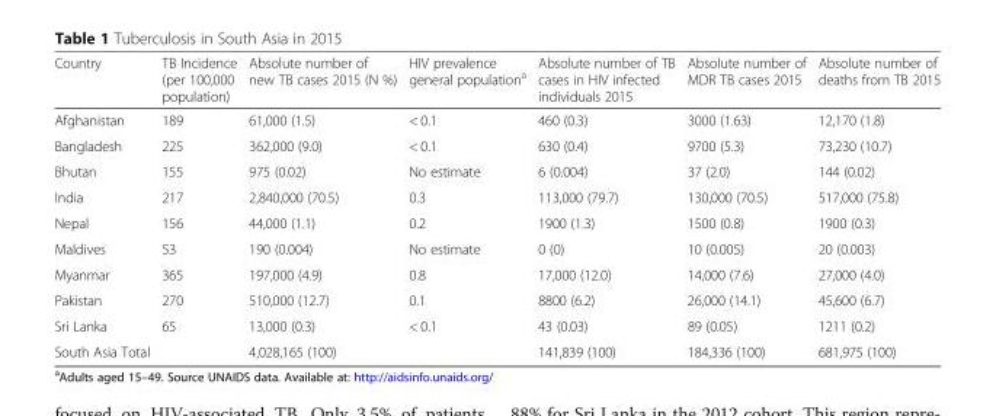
<table><thead><tr><td>Country</td><td>TB Incidence (per 100,000 population)</td><td>Absolute number of new TB cases 2015 (N %)</td><td>HIV prevalence general population<sup>a</sup></td><td>Absolute number of TB cases in HIV infected individuals 2015</td><td>Absolute number of MDR TB cases 2015</td><td>Absolute number of deaths from TB 2015</td></tr></thead><tbody><tr><td>Afghanistan</td><td>189</td><td>61,000 (1.5)</td><td>&lt; 0.1</td><td>460 (0.3)</td><td>3000 (1.63)</td><td>12,170 (1.8)</td></tr><tr><td>Bangladesh</td><td>225</td><td>362,000 (9.0)</td><td>&lt; 0.1</td><td>630 (0.4)</td><td>9700 (5.3)</td><td>73,230 (10.7)</td></tr><tr><td>Bhutan</td><td>155</td><td>975 (0.02)</td><td>No estimate</td><td>6 (0.004)</td><td>37 (2.0)</td><td>144 (0.02)</td></tr><tr><td>India</td><td>217</td><td>2,840,000 (70.5)</td><td>0.3</td><td>113,000 (79.7)</td><td>130,000 (70.5)</td><td>517,000 (75.8)</td></tr><tr><td>Nepal</td><td>156</td><td>44,000 (1.1)</td><td>0.2</td><td>1900 (1.3)</td><td>1500 (0.8)</td><td>1900 (0.3)</td></tr><tr><td>Maldives</td><td>53</td><td>190 (0.004)</td><td>No estimate</td><td>0 (0)</td><td>10 (0.005)</td><td>20 (0.003)</td></tr><tr><td>Myanmar</td><td>365</td><td>197,000 (4.9)</td><td>0.8</td><td>17,000 (12.0)</td><td>14,000 (7.6)</td><td>27,000 (4.0)</td></tr><tr><td>Pakistan</td><td>270</td><td>510,000 (12.7)</td><td>0.1</td><td>8800 (6.2)</td><td>26,000 (14.1)</td><td>45,600 (6.7)</td></tr><tr><td>Sri Lanka</td><td>65</td><td>13,000 (0.3)</td><td>&lt; 0.1</td><td>43 (0.03)</td><td>89 (0.05)</td><td>1211 (0.2)</td></tr><tr><td>South Asia Total</td><td></td><td>4,028,165 (100)</td><td></td><td>141,839 (100)</td><td>184,336 (100)</td><td>681,975 (100)</td></tr></tbody></table>